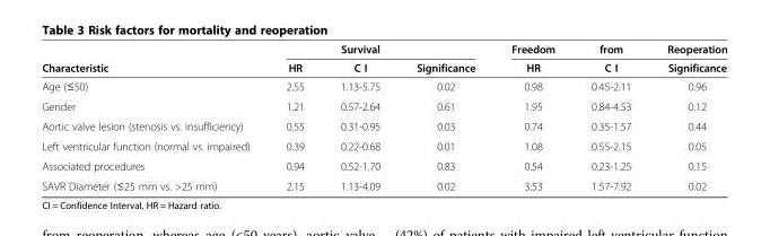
<table><thead><tr><td rowspan="2">Characteristic</td><td rowspan="2">HR</td><td rowspan="2">Survival C I</td><td rowspan="2">Significance</td><td rowspan="2">Freedom HR</td><td rowspan="2">from C I</td><td rowspan="2">Reoperation Significance</td></tr><tr></tr></thead><tbody><tr><td>Age (≤50)</td><td>2.55</td><td>1.13-5.75</td><td>0.02</td><td>0.98</td><td>0.45-2.11</td><td>0.96</td></tr><tr><td>Gender</td><td>1.21</td><td>0.57-2.64</td><td>0.61</td><td>1.95</td><td>0.84-4.53</td><td>0.12</td></tr><tr><td>Aortic valve lesion (stenosis vs. insufficiency)</td><td>0.55</td><td>0.31-0.95</td><td>0.03</td><td>0.74</td><td>0.35-1.57</td><td>0.44</td></tr><tr><td>Left ventricular function (normal vs. impaired)</td><td>0.39</td><td>0.22-0.68</td><td>0.01</td><td>1.08</td><td>0.55-2.15</td><td>0.05</td></tr><tr><td>Associated procedures</td><td>0.94</td><td>0.52-1.70</td><td>0.83</td><td>0.54</td><td>0.23-1.25</td><td>0.15</td></tr><tr><td>SAVR Diameter (≤25 mm vs. &gt;25 mm)</td><td>2.15</td><td>1.13-4.09</td><td>0.02</td><td>3.53</td><td>1.57-7.92</td><td>0.02</td></tr></tbody></table>